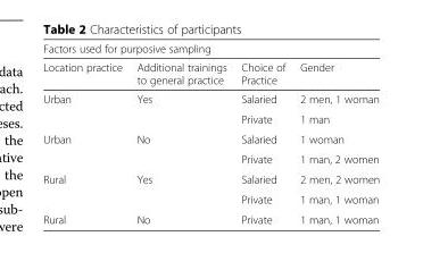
<table><thead><tr><td colspan="4">Factors used for purposive sampling</td></tr><tr><td>Location practice</td><td>Additional trainings to general practice</td><td>Choice of Practice</td><td>Gender</td></tr></thead><tbody><tr><td rowspan="2">Urban</td><td rowspan="2">Yes</td><td>Salaried</td><td>2 men, 1 woman</td></tr><tr><td>Private</td><td>1 man</td></tr><tr><td rowspan="2">Urban</td><td rowspan="2">No</td><td>Salaried</td><td>1 woman</td></tr><tr><td>Private</td><td>1 man, 2 women</td></tr><tr><td rowspan="2">Rural</td><td rowspan="2">Yes</td><td>Salaried</td><td>2 men, 2 women</td></tr><tr><td>Private</td><td>1 man, 1 woman</td></tr><tr><td>Rural</td><td>No</td><td>Private</td><td>1 man, 1 woman</td></tr></tbody></table>